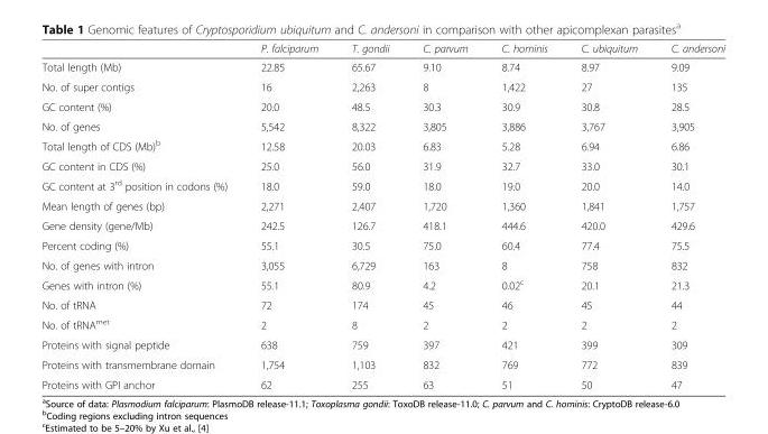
<table><thead><tr><td></td><td>P. falciparum</td><td>T. gondii</td><td>C. parvum</td><td>C. hominis</td><td>C. ubiquitum</td><td>C. andersoni</td></tr></thead><tbody><tr><td>Total length (Mb)</td><td>22.85</td><td>65.67</td><td>9.10</td><td>8.74</td><td>8.97</td><td>9.09</td></tr><tr><td>No. of super contigs</td><td>16</td><td>2,263</td><td>8</td><td>1,422</td><td>27</td><td>135</td></tr><tr><td>GC content (%)</td><td>20.0</td><td>48.5</td><td>30.3</td><td>30.9</td><td>30.8</td><td>28.5</td></tr><tr><td>No. of genes</td><td>5,542</td><td>8,322</td><td>3,805</td><td>3,886</td><td>3,767</td><td>3,905</td></tr><tr><td>Total length of CDS (Mb)<sup>b</sup></td><td>12.58</td><td>20.03</td><td>6.83</td><td>5.28</td><td>6.94</td><td>6.86</td></tr><tr><td>GC content in CDS (%)</td><td>25.0</td><td>56.0</td><td>31.9</td><td>32.7</td><td>33.0</td><td>30.1</td></tr><tr><td>GC content at 3<sup>rd</sup> position in codons (%)</td><td>18.0</td><td>59.0</td><td>18.0</td><td>19.0</td><td>20.0</td><td>14.0</td></tr><tr><td>Mean length of genes (bp)</td><td>2,271</td><td>2,407</td><td>1,720</td><td>1,360</td><td>1,841</td><td>1,757</td></tr><tr><td>Gene density (gene/Mb)</td><td>242.5</td><td>126.7</td><td>418.1</td><td>444.6</td><td>420.0</td><td>429.6</td></tr><tr><td>Percent coding (%)</td><td>55.1</td><td>30.5</td><td>75.0</td><td>60.4</td><td>77.4</td><td>75.5</td></tr><tr><td>No. of genes with intron</td><td>3,055</td><td>6,729</td><td>163</td><td>8</td><td>758</td><td>832</td></tr><tr><td>Genes with intron (%)</td><td>55.1</td><td>80.9</td><td>4.2</td><td>0.02<sup>c</sup></td><td>20.1</td><td>21.3</td></tr><tr><td>No. of tRNA</td><td>72</td><td>174</td><td>45</td><td>46</td><td>45</td><td>44</td></tr><tr><td>No. of tRNA<sup>met</sup></td><td>2</td><td>8</td><td>2</td><td>2</td><td>2</td><td>2</td></tr><tr><td>Proteins with signal peptide</td><td>638</td><td>759</td><td>397</td><td>421</td><td>399</td><td>309</td></tr><tr><td>Proteins with transmembrane domain</td><td>1,754</td><td>1,103</td><td>832</td><td>769</td><td>772</td><td>839</td></tr><tr><td>Proteins with GPI anchor</td><td>62</td><td>255</td><td>63</td><td>51</td><td>50</td><td>47</td></tr></tbody></table>